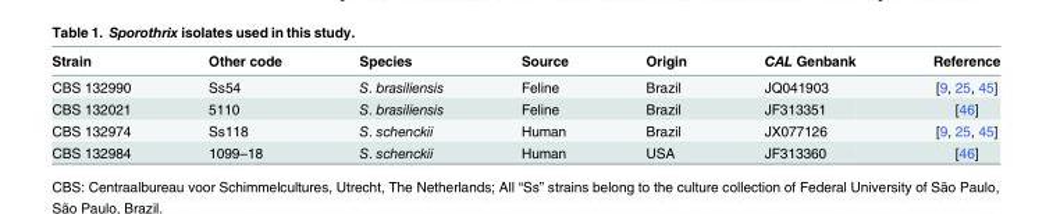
<table><thead><tr><td>Strain</td><td>Other code</td><td>Species</td><td>Source</td><td>Origin</td><td>CAL Genbank</td><td>Reference</td></tr></thead><tbody><tr><td>CBS 132990</td><td>Ss54</td><td>S. brasiliensis</td><td>Feline</td><td>Brazil</td><td>JQ041903</td><td>[9, 25, 45]</td></tr><tr><td>CBS 132021</td><td>5110</td><td>S. brasiliensis</td><td>Feline</td><td>Brazil</td><td>JF313351</td><td>[46]</td></tr><tr><td>CBS 132974</td><td>Ss118</td><td>S. schenckii</td><td>Human</td><td>Brazil</td><td>JX077126</td><td>[9, 25, 45]</td></tr><tr><td>CBS 132984</td><td>1099–18</td><td>S. schenckii</td><td>Human</td><td>USA</td><td>JF313360</td><td>[46]</td></tr></tbody></table>